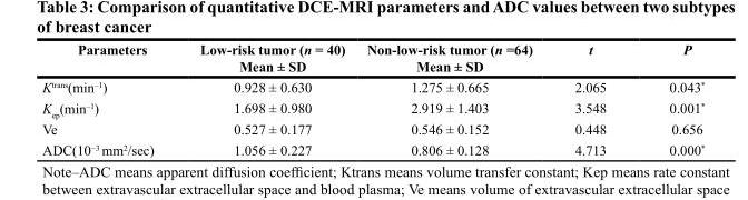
<table><thead><tr><td>Parameters</td><td>Low-risk tumor (n = 40) Mean ± SD</td><td>Non-low-risk tumor (n =64) Mean ± SD</td><td>t</td><td>P</td></tr></thead><tbody><tr><td>K<sup>trans</sup>(min<sup>–1</sup>)</td><td>0.928 ± 0.630</td><td>1.275 ± 0.665</td><td>2.065</td><td>0.043*</td></tr><tr><td>K<sub>ep</sub>(min<sup>–1</sup>)</td><td>1.698 ± 0.980</td><td>2.919 ± 1.403</td><td>3.548</td><td>0.001*</td></tr><tr><td>Ve</td><td>0.527 ± 0.177</td><td>0.546 ± 0.152</td><td>0.448</td><td>0.656</td></tr><tr><td>ADC(10<sup>−3</sup> mm<sup>2</sup>/sec)</td><td>1.056 ± 0.227</td><td>0.806 ± 0.128</td><td>4.713</td><td>0.000*</td></tr></tbody></table>